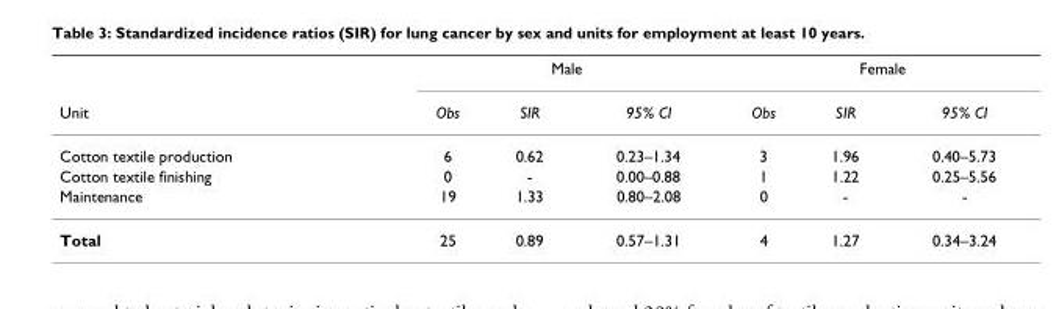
<table><thead><tr><td rowspan="2">Unit</td><td colspan="3">Male</td><td colspan="3">Female</td></tr><tr><td>Obs</td><td>SIR</td><td>95% CI</td><td>Obs</td><td>SIR</td><td>95% CI</td></tr></thead><tbody><tr><td>Cotton textile production</td><td>6</td><td>0.62</td><td>0.23–1.34</td><td>3</td><td>1.96</td><td>0.40–5.73</td></tr><tr><td>Cotton textile finishing</td><td>0</td><td>-</td><td>0.00–0.88</td><td>1</td><td>1.22</td><td>0.25–5.56</td></tr><tr><td>Maintenance</td><td>19</td><td>1.33</td><td>0.80–2.08</td><td>0</td><td>-</td><td>-</td></tr><tr><td>Total</td><td>25</td><td>0.89</td><td>0.57–1.31</td><td>4</td><td>1.27</td><td>0.34–3.24</td></tr></tbody></table>